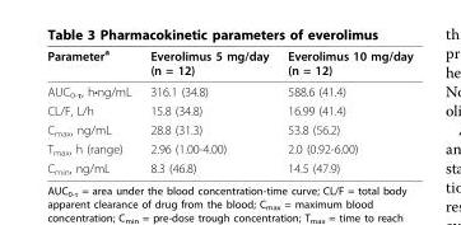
<table><thead><tr><td>Parameter<sup>a</sup></td><td>Everolimus 5 mg/day (n = 12)</td><td>Everolimus 10 mg/day (n = 12)</td></tr></thead><tbody><tr><td>AUC<sub>0-τ</sub>, h•ng/mL</td><td>316.1 (34.8)</td><td>588.6 (41.4)</td></tr><tr><td>CL/F, L/h</td><td>15.8 (34.8)</td><td>16.99 (41.4)</td></tr><tr><td>C<sub>max</sub>, ng/mL</td><td>28.8 (31.3)</td><td>53.8 (56.2)</td></tr><tr><td>T<sub>max</sub>, h (range)</td><td>2.96 (1.00-4.00)</td><td>2.0 (0.92-6.00)</td></tr><tr><td>C<sub>min</sub>, ng/mL</td><td>8.3 (46.8)</td><td>14.5 (47.9)</td></tr></tbody></table>